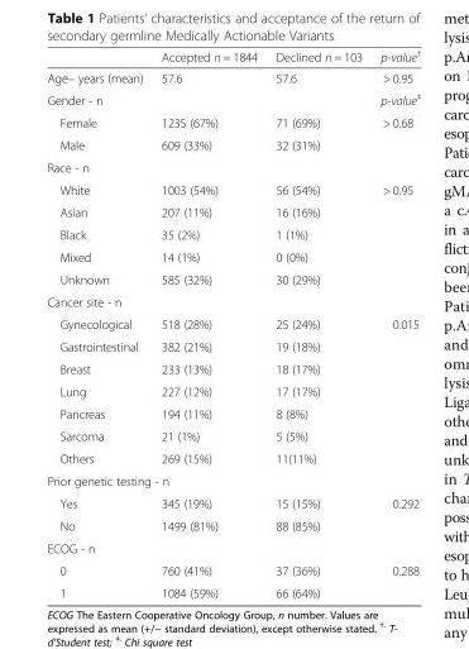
<table><thead><tr><td></td><td>Accepted n = 1844</td><td>Declined n = 103</td><td>p-value<sup>†</sup></td></tr></thead><tbody><tr><td>Age– years (mean)</td><td>57.6</td><td>57.6</td><td>&gt; 0.95</td></tr><tr><td colspan="3">Gender - n</td><td>p-value<sup>‡</sup></td></tr><tr><td>Female</td><td>1235 (67%)</td><td>71 (69%)</td><td rowspan="2">&gt; 0.68</td></tr><tr><td>Male</td><td>609 (33%)</td><td>32 (31%)</td></tr><tr><td colspan="4">Race - n</td></tr><tr><td>White</td><td>1003 (54%)</td><td>56 (54%)</td><td rowspan="5">&gt; 0.95</td></tr><tr><td>Asian</td><td>207 (11%)</td><td>16 (16%)</td></tr><tr><td>Black</td><td>35 (2%)</td><td>1 (1%)</td></tr><tr><td>Mixed</td><td>14 (1%)</td><td>0 (0%)</td></tr><tr><td>Unknown</td><td>585 (32%)</td><td>30 (29%)</td></tr><tr><td colspan="4">Cancer site - n</td></tr><tr><td>Gynecological</td><td>518 (28%)</td><td>25 (24%)</td><td rowspan="7">0.015</td></tr><tr><td>Gastrointestinal</td><td>382 (21%)</td><td>19 (18%)</td></tr><tr><td>Breast</td><td>233 (13%)</td><td>18 (17%)</td></tr><tr><td>Lung</td><td>227 (12%)</td><td>17 (17%)</td></tr><tr><td>Pancreas</td><td>194 (11%)</td><td>8 (8%)</td></tr><tr><td>Sarcoma</td><td>21 (1%)</td><td>5 (5%)</td></tr><tr><td>Others</td><td>269 (15%)</td><td>11(11%)</td></tr><tr><td colspan="4">Prior genetic testing - n</td></tr><tr><td>Yes</td><td>345 (19%)</td><td>15 (15%)</td><td rowspan="2">0.292</td></tr><tr><td>No</td><td>1499 (81%)</td><td>88 (85%)</td></tr><tr><td colspan="4">ECOG - n</td></tr><tr><td>0</td><td>760 (41%)</td><td>37 (36%)</td><td rowspan="2">0.288</td></tr><tr><td>1</td><td>1084 (59%)</td><td>66 (64%)</td></tr></tbody></table>